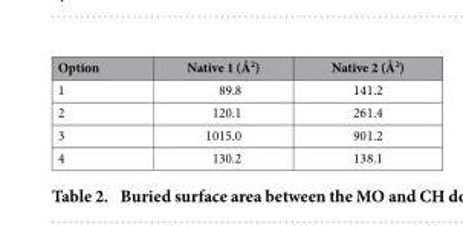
<table><thead><tr><td>Option</td><td>Native 1 (Å<sup>2</sup>)</td><td>Native 2 (Å<sup>2</sup>)</td></tr></thead><tbody><tr><td>1</td><td>89.8</td><td>141.2</td></tr><tr><td>2</td><td>120.1</td><td>261.4</td></tr><tr><td>3</td><td>1015.0</td><td>901.2</td></tr><tr><td>4</td><td>130.2</td><td>138.1</td></tr></tbody></table>